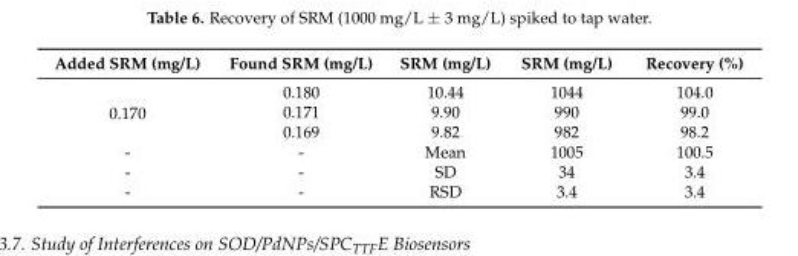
<table><thead><tr><td>Added SRM (mg/L)</td><td>Found SRM (mg/L)</td><td>SRM (mg/L)</td><td>SRM (mg/L)</td><td>Recovery (%)</td></tr></thead><tbody><tr><td rowspan="3">0.170</td><td>0.180</td><td>10.44</td><td>1044</td><td>104.0</td></tr><tr><td>0.171</td><td>9.90</td><td>990</td><td>99.0</td></tr><tr><td>0.169</td><td>9.82</td><td>982</td><td>98.2</td></tr><tr><td>-</td><td>-</td><td>Mean</td><td>1005</td><td>100.5</td></tr><tr><td>-</td><td>-</td><td>SD</td><td>34</td><td>3.4</td></tr><tr><td>-</td><td>-</td><td>RSD</td><td>3.4</td><td>3.4</td></tr></tbody></table>